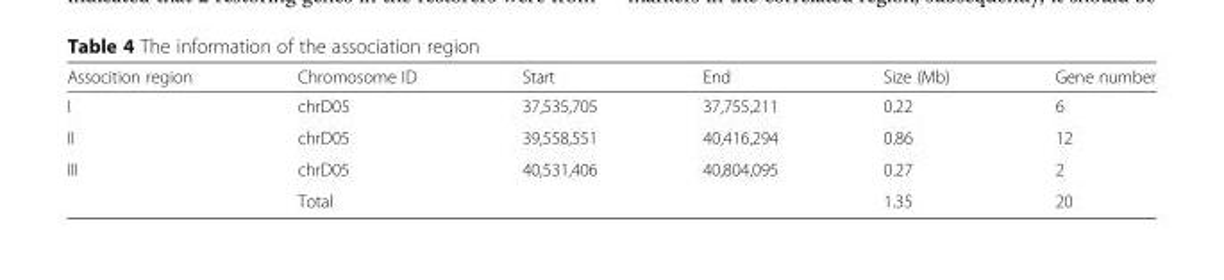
<table><thead><tr><td>Assocition region</td><td>Chromosome ID</td><td>Start</td><td>End</td><td>Size (Mb)</td><td>Gene number</td></tr></thead><tbody><tr><td>I</td><td>chrD05</td><td>37,535,705</td><td>37,755,211</td><td>0.22</td><td>6</td></tr><tr><td>II</td><td>chrD05</td><td>39,558,551</td><td>40,416,294</td><td>0.86</td><td>12</td></tr><tr><td rowspan="2">III</td><td>chrD05</td><td>40,531,406</td><td>40,804,095</td><td>0.27</td><td>2</td></tr><tr><td>Total</td><td></td><td></td><td>1.35</td><td>20</td></tr></tbody></table>